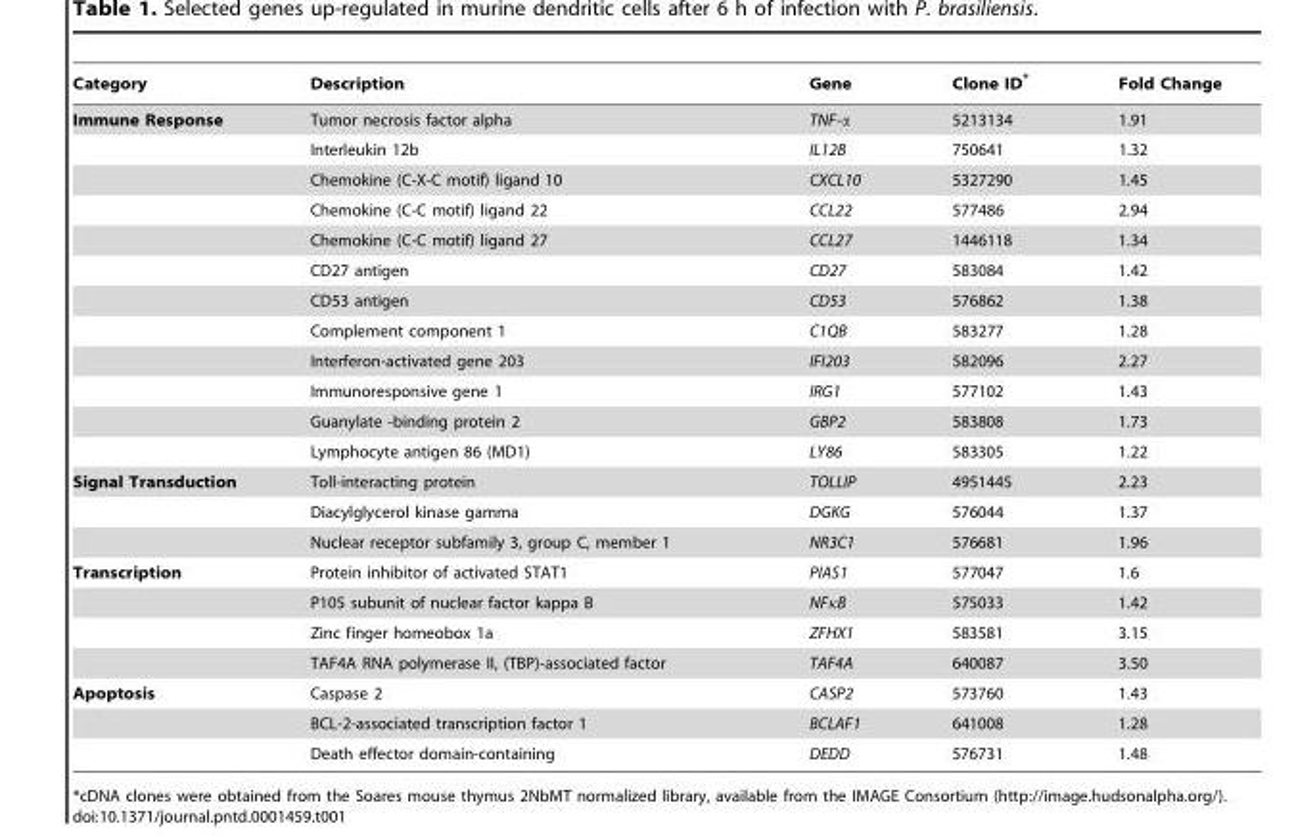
<table><thead><tr><td>Category</td><td>Description</td><td>Gene</td><td>Clone ID*</td><td>Fold Change</td></tr></thead><tbody><tr><td rowspan="12">Immune Response</td><td>Tumor necrosis factor alpha</td><td>TNF-α</td><td>5213134</td><td>1.91</td></tr><tr><td>Interleukin 12b</td><td>IL12B</td><td>750641</td><td>1.32</td></tr><tr><td>Chemokine (C-X-C motif) ligand 10</td><td>CXCL10</td><td>5327290</td><td>1.45</td></tr><tr><td>Chemokine (C-C motif) ligand 22</td><td>CCL22</td><td>577486</td><td>2.94</td></tr><tr><td>Chemokine (C-C motif) ligand 27</td><td>CCL27</td><td>1446118</td><td>1.34</td></tr><tr><td>CD27 antigen</td><td>CD27</td><td>583084</td><td>1.42</td></tr><tr><td>CD53 antigen</td><td>CD53</td><td>576862</td><td>1.38</td></tr><tr><td>Complement component 1</td><td>C1QB</td><td>583277</td><td>1.28</td></tr><tr><td>Interferon-activated gene 203</td><td>IFI203</td><td>582096</td><td>2.27</td></tr><tr><td>Immunoresponsive gene 1</td><td>IRG1</td><td>577102</td><td>1.43</td></tr><tr><td>Guanylate -binding protein 2</td><td>GBP2</td><td>583808</td><td>1.73</td></tr><tr><td>Lymphocyte antigen 86 (MD1)</td><td>LY86</td><td>583305</td><td>1.22</td></tr><tr><td rowspan="3">Signal Transduction</td><td>Toll-interacting protein</td><td>TOLLIP</td><td>4951445</td><td>2.23</td></tr><tr><td>Diacylglycerol kinase gamma</td><td>DGKG</td><td>576044</td><td>1.37</td></tr><tr><td>Nuclear receptor subfamily 3, group C, member 1</td><td>NR3C1</td><td>576681</td><td>1.96</td></tr><tr><td rowspan="4">Transcription</td><td>Protein inhibitor of activated STAT1</td><td>PIAS1</td><td>577047</td><td>1.6</td></tr><tr><td>P105 subunit of nuclear factor kappa B</td><td>NFκB</td><td>575033</td><td>1.42</td></tr><tr><td>Zinc finger homeobox 1a</td><td>ZFHX1</td><td>583581</td><td>3.15</td></tr><tr><td>TAF4A RNA polymerase II, (TBP)-associated factor</td><td>TAF4A</td><td>640087</td><td>3.50</td></tr><tr><td rowspan="3">Apoptosis</td><td>Caspase 2</td><td>CASP2</td><td>573760</td><td>1.43</td></tr><tr><td>BCL-2-associated transcription factor 1</td><td>BCLAF1</td><td>641008</td><td>1.28</td></tr><tr><td>Death effector domain-containing</td><td>DEDD</td><td>576731</td><td>1.48</td></tr></tbody></table>